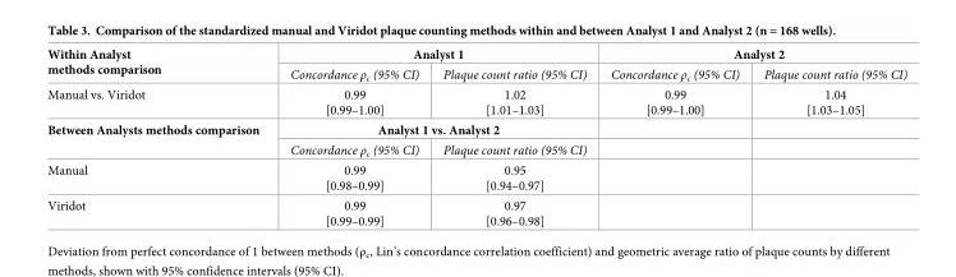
<table><tbody><tr><td rowspan="2">Within Analyst methods comparison</td><td colspan="2">Analyst 1</td><td colspan="2">Analyst 2</td></tr><tr><td>Concordance ρ<sub>c</sub> (95% CI)</td><td>Plaque count ratio (95% CI)</td><td>Concordance ρ<sub>c</sub> (95% CI)</td><td>Plaque count ratio (95% CI)</td></tr><tr><td>Manual vs. Viridot</td><td>0.99 [0.99–1.00]</td><td>1.02 [1.01–1.03]</td><td>0.99 [0.99–1.00]</td><td>1.04 [1.03–1.05]</td></tr><tr><td rowspan="2">Between Analysts methods comparison</td><td colspan="2">Analyst 1 vs. Analyst 2</td><td></td><td></td></tr><tr><td>Concordance ρ<sub>c</sub> (95% CI)</td><td>Plaque count ratio (95% CI)</td><td></td><td></td></tr><tr><td>Manual</td><td>0.99 [0.98–0.99]</td><td>0.95 [0.94–0.97]</td><td></td><td></td></tr><tr><td>Viridot</td><td>0.99 [0.99–0.99]</td><td>0.97 [0.96–0.98]</td><td></td><td></td></tr></tbody></table>